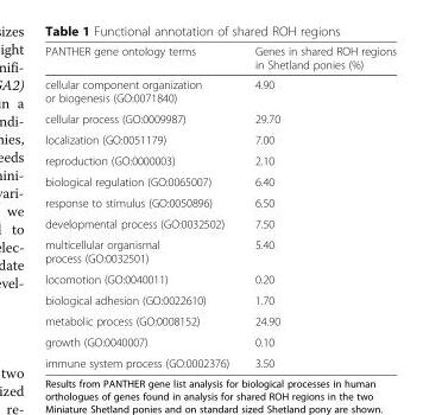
<table><thead><tr><td>PANTHER gene ontology terms</td><td>Genes in shared ROH regions in Shetland ponies (%)</td></tr></thead><tbody><tr><td>cellular component organization or biogenesis (GO:0071840)</td><td>4.90</td></tr><tr><td>cellular process (GO:0009987)</td><td>29.70</td></tr><tr><td>localization (GO:0051179)</td><td>7.00</td></tr><tr><td>reproduction (GO:0000003)</td><td>2.10</td></tr><tr><td>biological regulation (GO:0065007)</td><td>6.40</td></tr><tr><td>response to stimulus (GO:0050896)</td><td>6.50</td></tr><tr><td>developmental process (GO:0032502)</td><td>7.50</td></tr><tr><td>multicellular organismal process (GO:0032501)</td><td>5.40</td></tr><tr><td>locomotion (GO:0040011)</td><td>0.20</td></tr><tr><td>biological adhesion (GO:0022610)</td><td>1.70</td></tr><tr><td>metabolic process (GO:0008152)</td><td>24.90</td></tr><tr><td>growth (GO:0040007)</td><td>0.10</td></tr><tr><td>immune system process (GO:0002376)</td><td>3.50</td></tr></tbody></table>